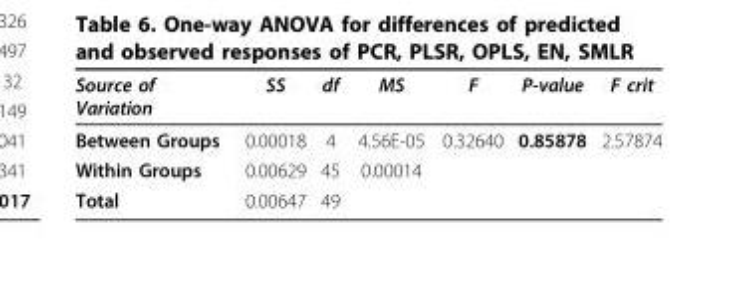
<table><thead><tr><td>Source of Variation</td><td>SS</td><td>df</td><td>MS</td><td>F</td><td>P-value</td><td>F crit</td></tr></thead><tbody><tr><td>Between Groups</td><td>0.00018</td><td>4</td><td>4.56E-05</td><td>0.32640</td><td>0.85878</td><td>2.57874</td></tr><tr><td>Within Groups</td><td>0.00629</td><td>45</td><td>0.00014</td><td></td><td></td><td></td></tr><tr><td>Total</td><td>0.00647</td><td>49</td><td></td><td></td><td></td><td></td></tr></tbody></table>